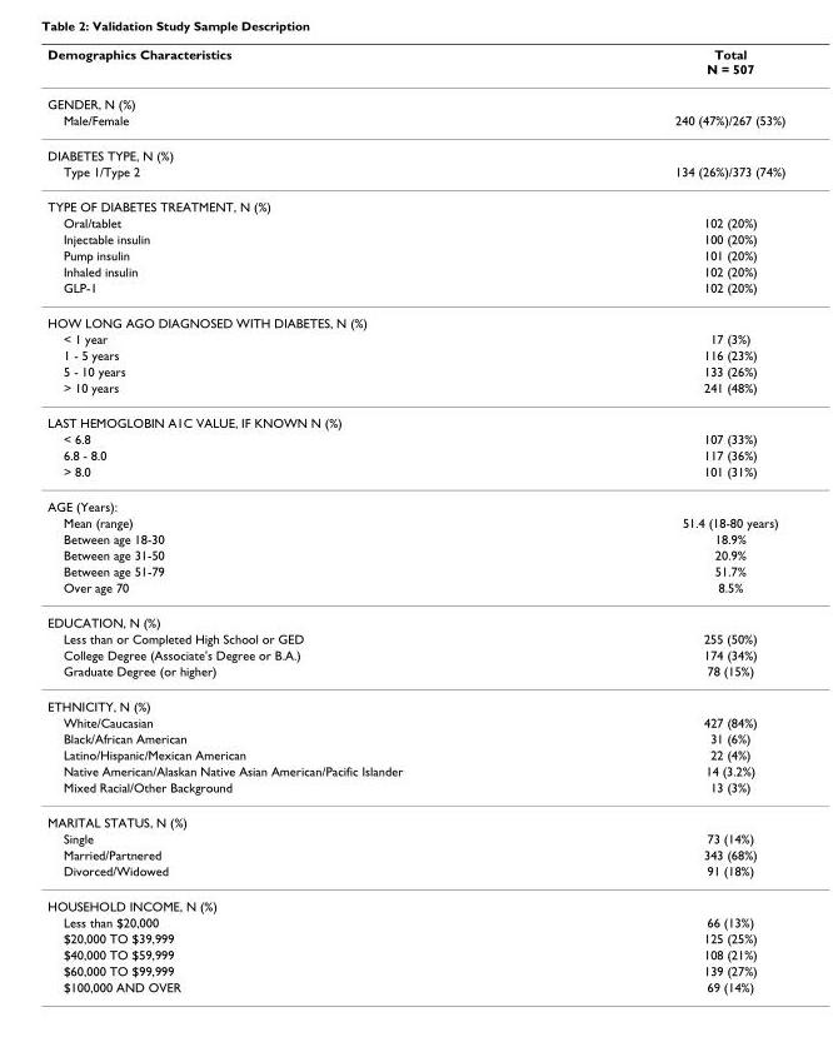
<table><thead><tr><td>Demographics Characteristics</td><td>Total N = 507</td></tr></thead><tbody><tr><td colspan="2">GENDER, N (%)</td></tr><tr><td>Male/Female</td><td>240 (47%)/267 (53%)</td></tr><tr><td colspan="2">DIABETES TYPE, N (%)</td></tr><tr><td>Type 1/Type 2</td><td>134 (26%)/373 (74%)</td></tr><tr><td colspan="2">TYPE OF DIABETES TREATMENT, N (%)</td></tr><tr><td>Oral/tablet</td><td>102 (20%)</td></tr><tr><td>Injectable insulin</td><td>100 (20%)</td></tr><tr><td>Pump insulin</td><td>101 (20%)</td></tr><tr><td>Inhaled insulin</td><td>102 (20%)</td></tr><tr><td>GLP-1</td><td>102 (20%)</td></tr><tr><td colspan="2">HOW LONG AGO DIAGNOSED WITH DIABETES, N (%)</td></tr><tr><td>&lt; 1 year</td><td>17 (3%)</td></tr><tr><td>1 - 5 years</td><td>116 (23%)</td></tr><tr><td>5 - 10 years</td><td>133 (26%)</td></tr><tr><td>&gt; 10 years</td><td>241 (48%)</td></tr><tr><td colspan="2">LAST HEMOGLOBIN A1C VALUE, IF KNOWN N (%)</td></tr><tr><td>&lt; 6.8</td><td>107 (33%)</td></tr><tr><td>6.8 - 8.0</td><td>117 (36%)</td></tr><tr><td>&gt; 8.0</td><td>101 (31%)</td></tr><tr><td colspan="2">AGE (Years):</td></tr><tr><td>Mean (range)</td><td>51.4 (18-80 years)</td></tr><tr><td>Between age 18-30</td><td>18.9%</td></tr><tr><td>Between age 31-50</td><td>20.9%</td></tr><tr><td>Between age 51-79</td><td>51.7%</td></tr><tr><td>Over age 70</td><td>8.5%</td></tr><tr><td colspan="2">EDUCATION, N (%)</td></tr><tr><td>Less than or Completed High School or GED</td><td>255 (50%)</td></tr><tr><td>College Degree (Associate&#x27;s Degree or B.A.)</td><td>174 (34%)</td></tr><tr><td>Graduate Degree (or higher)</td><td>78 (15%)</td></tr><tr><td colspan="2">ETHNICITY, N (%)</td></tr><tr><td>White/Caucasian</td><td>427 (84%)</td></tr><tr><td>Black/African American</td><td>31 (6%)</td></tr><tr><td>Latino/Hispanic/Mexican American</td><td>22 (4%)</td></tr><tr><td>Native American/Alaskan Native Asian American/Pacific Islander</td><td>14 (3.2%)</td></tr><tr><td>Mixed Racial/Other Background</td><td>13 (3%)</td></tr><tr><td colspan="2">MARITAL STATUS, N (%)</td></tr><tr><td>Single</td><td>73 (14%)</td></tr><tr><td>Married/Partnered</td><td>343 (68%)</td></tr><tr><td>Divorced/Widowed</td><td>91 (18%)</td></tr><tr><td colspan="2">HOUSEHOLD INCOME, N (%)</td></tr><tr><td>Less than $20,000</td><td>66 (13%)</td></tr><tr><td>$20,000 TO $39,999</td><td>125 (25%)</td></tr><tr><td>$40,000 TO $59,999</td><td>108 (21%)</td></tr><tr><td>$60,000 TO $99,999</td><td>139 (27%)</td></tr><tr><td>$100,000 AND OVER</td><td>69 (14%)</td></tr></tbody></table>